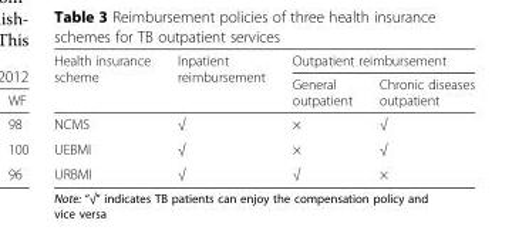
<table><thead><tr><td rowspan="2">Health insurance scheme</td><td rowspan="2">Inpatient reimbursement</td><td colspan="2">Outpatient reimbursement</td></tr><tr><td>General outpatient</td><td>Chronic diseases outpatient</td></tr></thead><tbody><tr><td>NCMS</td><td>√</td><td>×</td><td>√</td></tr><tr><td>UEBMI</td><td>√</td><td>×</td><td>√</td></tr><tr><td>URBMI</td><td>√</td><td>√</td><td>×</td></tr></tbody></table>